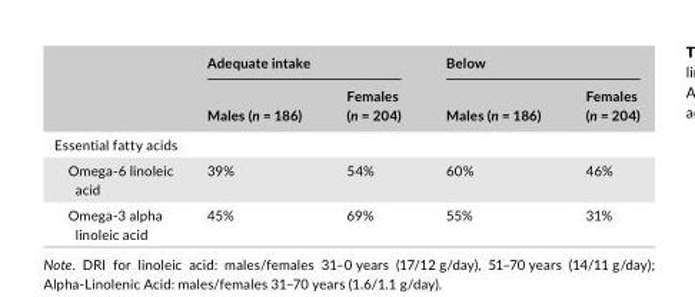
<table><thead><tr><td rowspan="2"></td><td colspan="2">Adequate intake</td><td colspan="2">Below</td></tr><tr><td>Males (n = 186)</td><td>Females (n = 204)</td><td>Males (n = 186)</td><td>Females (n = 204)</td></tr></thead><tbody><tr><td colspan="5">Essential fatty acids</td></tr><tr><td>Omega- 6 linoleic acid</td><td>39%</td><td>54%</td><td>60%</td><td>46%</td></tr><tr><td>Omega- 3 alpha linoleic acid</td><td>45%</td><td>69%</td><td>55%</td><td>31%</td></tr></tbody></table>